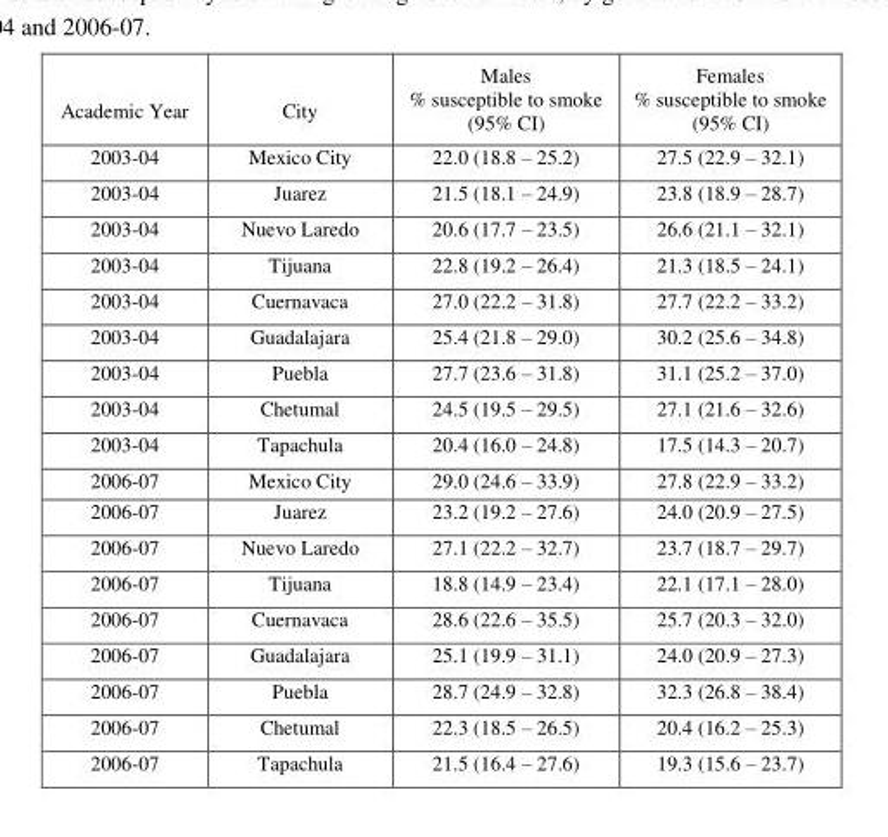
<table><thead><tr><td>Academic Year</td><td>City</td><td>Males % susceptible to smoke (95% CI)</td><td>Females % susceptible to smoke (95% CI)</td></tr></thead><tbody><tr><td>2003-04</td><td>Mexico City</td><td>22.0 (18.8 – 25.2)</td><td>27.5 (22.9 – 32.1)</td></tr><tr><td>2003-04</td><td>Juarez</td><td>21.5 (18.1 – 24.9)</td><td>23.8 (18.9 – 28.7)</td></tr><tr><td>2003-04</td><td>Nuevo Laredo</td><td>20.6 (17.7 – 23.5)</td><td>26.6 (21.1 – 32.1)</td></tr><tr><td>2003-04</td><td>Tijuana</td><td>22.8 (19.2 – 26.4)</td><td>21.3 (18.5 – 24.1)</td></tr><tr><td>2003-04</td><td>Cuernavaca</td><td>27.0 (22.2 – 31.8)</td><td>27.7 (22.2 – 33.2)</td></tr><tr><td>2003-04</td><td>Guadalajara</td><td>25.4 (21.8 – 29.0)</td><td>30.2 (25.6 – 34.8)</td></tr><tr><td>2003-04</td><td>Puebla</td><td>27.7 (23.6 – 31.8)</td><td>31.1 (25.2 – 37.0)</td></tr><tr><td>2003-04</td><td>Chetumal</td><td>24.5 (19.5 – 29.5)</td><td>27.1 (21.6 – 32.6)</td></tr><tr><td>2003-04</td><td>Tapachula</td><td>20.4 (16.0 – 24.8)</td><td>17.5 (14.3 – 20.7)</td></tr><tr><td>2006-07</td><td>Mexico City</td><td>29.0 (24.6 – 33.9)</td><td>27.8 (22.9 – 33.2)</td></tr><tr><td>2006-07</td><td>Juarez</td><td>23.2 (19.2 – 27.6)</td><td>24.0 (20.9 – 27.5)</td></tr><tr><td>2006-07</td><td>Nuevo Laredo</td><td>27.1 (22.2 – 32.7)</td><td>23.7 (18.7 – 29.7)</td></tr><tr><td>2006-07</td><td>Tijuana</td><td>18.8 (14.9 – 23.4)</td><td>22.1 (17.1 – 28.0)</td></tr><tr><td>2006-07</td><td>Cuernavaca</td><td>28.6 (22.6 – 35.5)</td><td>25.7 (20.3 – 32.0)</td></tr><tr><td>2006-07</td><td>Guadalajara</td><td>25.1 (19.9 – 31.1)</td><td>24.0 (20.9 – 27.3)</td></tr><tr><td>2006-07</td><td>Puebla</td><td>28.7 (24.9 – 32.8)</td><td>32.3 (26.8 – 38.4)</td></tr><tr><td>2006-07</td><td>Chetumal</td><td>22.3 (18.5 – 26.5)</td><td>20.4 (16.2 – 25.3)</td></tr><tr><td>2006-07</td><td>Tapachula</td><td>21.5 (16.4 – 27.6)</td><td>19.3 (15.6 – 23.7)</td></tr></tbody></table>